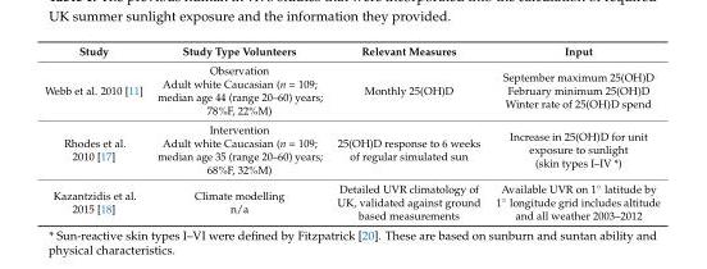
<table><thead><tr><td>Study</td><td>Study Type Volunteers</td><td>Relevant Measures</td><td>Input</td></tr></thead><tbody><tr><td>Webb et al. 2010 [11]</td><td>Observation Adult white Caucasian (n = 109; median age 44 (range 20–60) years; 78%F, 22%M)</td><td>Monthly 25(OH)D</td><td>September maximum 25(OH)D February minimum 25(OH)D Winter rate of 25(OH)D spend</td></tr><tr><td>Rhodes et al. 2010 [17]</td><td>Intervention Adult white Caucasian (n = 109; median age 35 (range 20–60) years; 68%F, 32%M)</td><td>25(OH)D response to 6 weeks of regular simulated sun</td><td>Increase in 25(OH)D for unit exposure to sunlight (skin types I–IV *)</td></tr><tr><td>Kazantzidis et al. 2015 [18]</td><td>Climate modelling n/a</td><td>Detailed UVR climatology of UK, validated against ground based measurements</td><td>Available UVR on 1◦ latitude by 1◦ longitude grid includes altitude and all weather 2003–2012</td></tr></tbody></table>